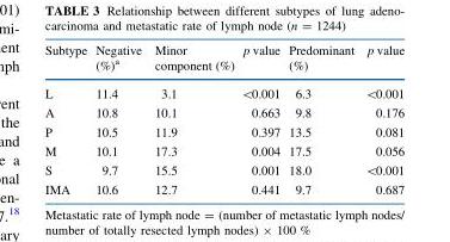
<table><thead><tr><td>Subtype</td><td>Negative (%)<sup>a</sup></td><td>Minor component (%)</td><td>p value</td><td>Predominant (%)</td><td>p value</td></tr></thead><tbody><tr><td>L</td><td>11.4</td><td>3.1</td><td>&lt;0.001</td><td>6.3</td><td>&lt;0.001</td></tr><tr><td>A</td><td>10.8</td><td>10.1</td><td>0.663</td><td>9.8</td><td>0.176</td></tr><tr><td>P</td><td>10.5</td><td>11.9</td><td>0.397</td><td>13.5</td><td>0.081</td></tr><tr><td>M</td><td>10.1</td><td>17.3</td><td>0.004</td><td>17.5</td><td>0.056</td></tr><tr><td>S</td><td>9.7</td><td>15.5</td><td>0.001</td><td>18.0</td><td>&lt;0.001</td></tr><tr><td>IMA</td><td>10.6</td><td>12.7</td><td>0.441</td><td>9.7</td><td>0.687</td></tr></tbody></table>